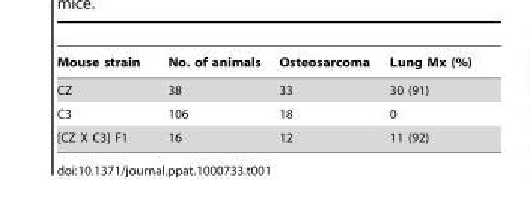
<table><thead><tr><td>Mouse strain</td><td>No. of animals</td><td>Osteosarcoma</td><td>Lung Mx (%)</td></tr></thead><tbody><tr><td>CZ</td><td>38</td><td>33</td><td>30 (91)</td></tr><tr><td>C3</td><td>106</td><td>18</td><td>0</td></tr><tr><td>[CZ X C3] F1</td><td>16</td><td>12</td><td>11 (92)</td></tr></tbody></table>